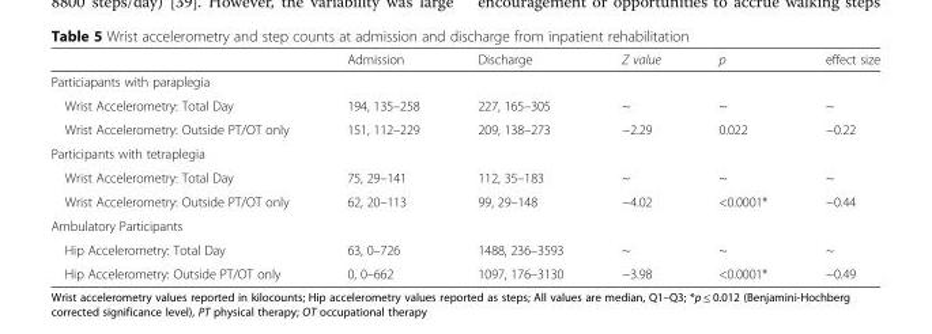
<table><thead><tr><td></td><td>Admission</td><td>Discharge</td><td>Z value</td><td>p</td><td>effect size</td></tr></thead><tbody><tr><td colspan="6">Particiapants with paraplegia</td></tr><tr><td>Wrist Accelerometry: Total Day</td><td>194, 135–258</td><td>227, 165–305</td><td>~</td><td>~</td><td>~</td></tr><tr><td>Wrist Accelerometry: Outside PT/OT only</td><td>151, 112–229</td><td>209, 138–273</td><td>−2.29</td><td>0.022</td><td>−0.22</td></tr><tr><td colspan="6">Participants with tetraplegia</td></tr><tr><td>Wrist Accelerometry: Total Day</td><td>75, 29–141</td><td>112, 35–183</td><td>~</td><td>~</td><td>~</td></tr><tr><td>Wrist Accelerometry: Outside PT/OT only</td><td>62, 20–113</td><td>99, 29–148</td><td>−4.02</td><td>&lt;0.0001*</td><td>−0.44</td></tr><tr><td colspan="6">Ambulatory Participants</td></tr><tr><td>Hip Accelerometry: Total Day</td><td>63, 0–726</td><td>1488, 236–3593</td><td>~</td><td>~</td><td>~</td></tr><tr><td>Hip Accelerometry: Outside PT/OT only</td><td>0, 0–662</td><td>1097, 176–3130</td><td>−3.98</td><td>&lt;0.0001*</td><td>−0.49</td></tr></tbody></table>